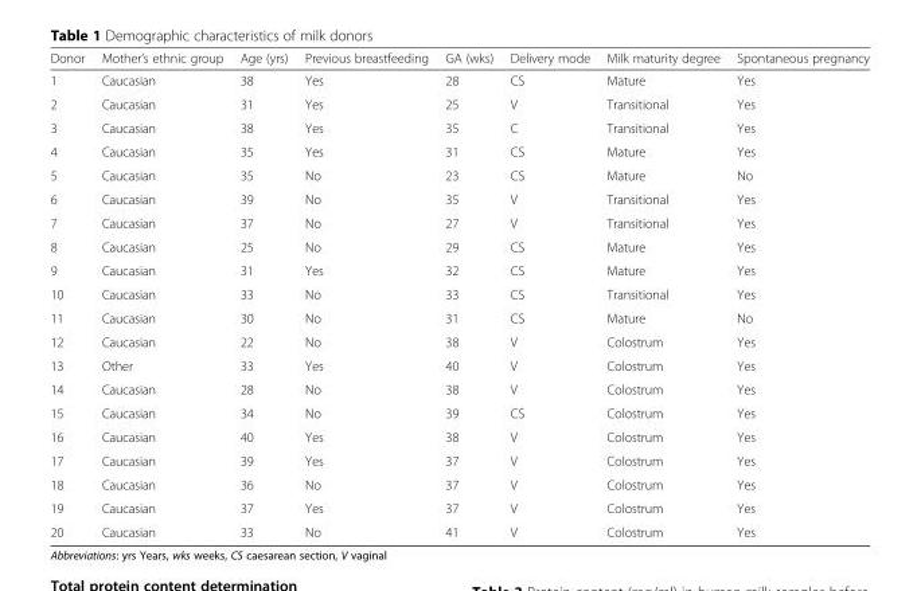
<table><thead><tr><td>Donor</td><td>Mother’s ethnic group</td><td>Age (yrs)</td><td>Previous breastfeeding</td><td>GA (wks)</td><td>Delivery mode</td><td>Milk maturity degree</td><td>Spontaneous pregnancy</td></tr></thead><tbody><tr><td>1</td><td>Caucasian</td><td>38</td><td>Yes</td><td>28</td><td>CS</td><td>Mature</td><td>Yes</td></tr><tr><td>2</td><td>Caucasian</td><td>31</td><td>Yes</td><td>25</td><td>V</td><td>Transitional</td><td>Yes</td></tr><tr><td>3</td><td>Caucasian</td><td>38</td><td>Yes</td><td>35</td><td>C</td><td>Transitional</td><td>Yes</td></tr><tr><td>4</td><td>Caucasian</td><td>35</td><td>Yes</td><td>31</td><td>CS</td><td>Mature</td><td>Yes</td></tr><tr><td>5</td><td>Caucasian</td><td>35</td><td>No</td><td>23</td><td>CS</td><td>Mature</td><td>No</td></tr><tr><td>6</td><td>Caucasian</td><td>39</td><td>No</td><td>35</td><td>V</td><td>Transitional</td><td>Yes</td></tr><tr><td>7</td><td>Caucasian</td><td>37</td><td>No</td><td>27</td><td>V</td><td>Transitional</td><td>Yes</td></tr><tr><td>8</td><td>Caucasian</td><td>25</td><td>No</td><td>29</td><td>CS</td><td>Mature</td><td>Yes</td></tr><tr><td>9</td><td>Caucasian</td><td>31</td><td>Yes</td><td>32</td><td>CS</td><td>Mature</td><td>Yes</td></tr><tr><td>10</td><td>Caucasian</td><td>33</td><td>No</td><td>33</td><td>CS</td><td>Transitional</td><td>Yes</td></tr><tr><td>11</td><td>Caucasian</td><td>30</td><td>No</td><td>31</td><td>CS</td><td>Mature</td><td>No</td></tr><tr><td>12</td><td>Caucasian</td><td>22</td><td>No</td><td>38</td><td>V</td><td>Colostrum</td><td>Yes</td></tr><tr><td>13</td><td>Other</td><td>33</td><td>Yes</td><td>40</td><td>V</td><td>Colostrum</td><td>Yes</td></tr><tr><td>14</td><td>Caucasian</td><td>28</td><td>No</td><td>38</td><td>V</td><td>Colostrum</td><td>Yes</td></tr><tr><td>15</td><td>Caucasian</td><td>34</td><td>No</td><td>39</td><td>CS</td><td>Colostrum</td><td>Yes</td></tr><tr><td>16</td><td>Caucasian</td><td>40</td><td>Yes</td><td>38</td><td>V</td><td>Colostrum</td><td>Yes</td></tr><tr><td>17</td><td>Caucasian</td><td>39</td><td>Yes</td><td>37</td><td>V</td><td>Colostrum</td><td>Yes</td></tr><tr><td>18</td><td>Caucasian</td><td>36</td><td>No</td><td>37</td><td>V</td><td>Colostrum</td><td>Yes</td></tr><tr><td>19</td><td>Caucasian</td><td>37</td><td>Yes</td><td>37</td><td>V</td><td>Colostrum</td><td>Yes</td></tr><tr><td>20</td><td>Caucasian</td><td>33</td><td>No</td><td>41</td><td>V</td><td>Colostrum</td><td>Yes</td></tr></tbody></table>